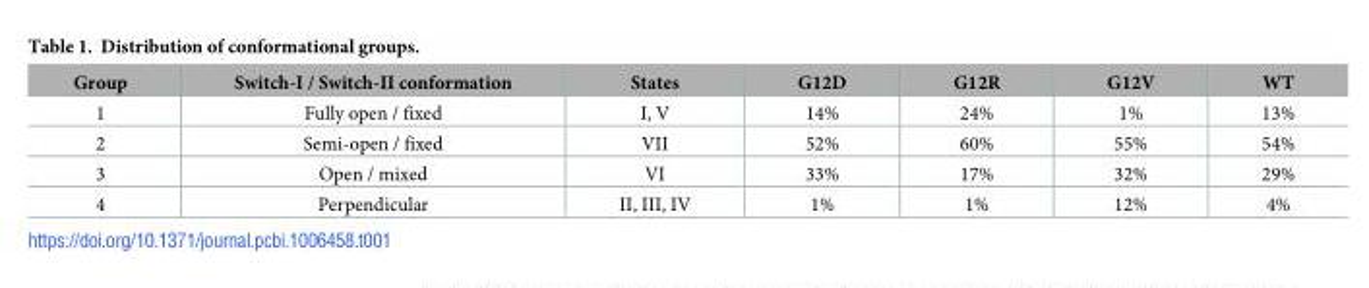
<table><thead><tr><td>Group</td><td>Switch-I / Switch-II conformation</td><td>States</td><td>G12D</td><td>G12R</td><td>G12V</td><td>WT</td></tr></thead><tbody><tr><td>1</td><td>Fully open / fixed</td><td>I, V</td><td>14%</td><td>24%</td><td>1%</td><td>13%</td></tr><tr><td>2</td><td>Semi-open / fixed</td><td>VII</td><td>52%</td><td>60%</td><td>55%</td><td>54%</td></tr><tr><td>3</td><td>Open / mixed</td><td>VI</td><td>33%</td><td>17%</td><td>32%</td><td>29%</td></tr><tr><td>4</td><td>Perpendicular</td><td>II, III, IV</td><td>1%</td><td>1%</td><td>12%</td><td>4%</td></tr></tbody></table>